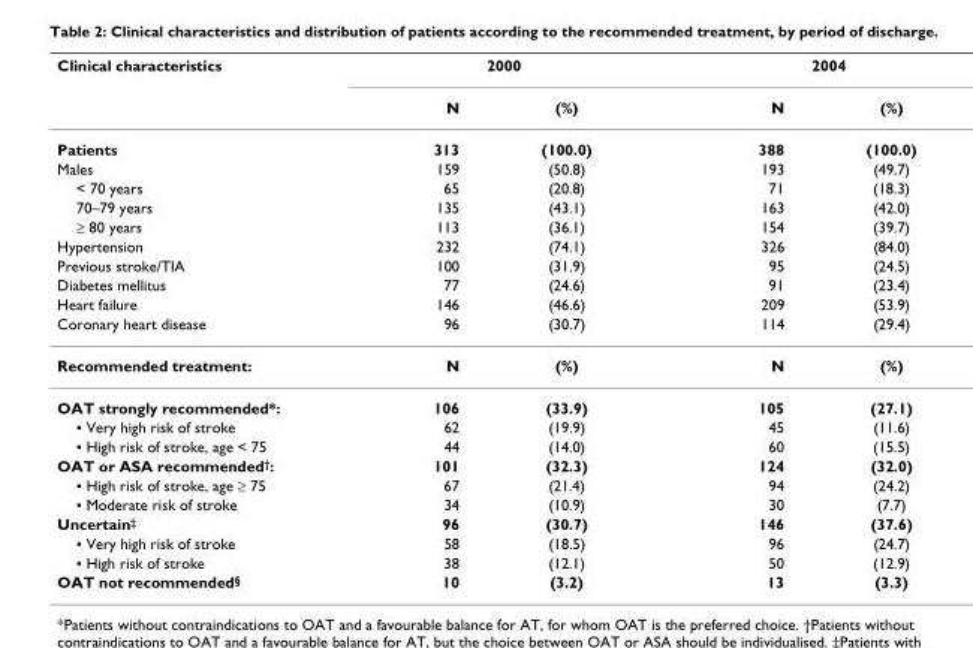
<table><thead><tr><td rowspan="2">Clinical characteristics</td><td colspan="2">2000</td><td colspan="2">2004</td></tr><tr><td>N</td><td>(%)</td><td>N</td><td>(%)</td></tr></thead><tbody><tr><td>Patients</td><td>313</td><td>(100.0)</td><td>388</td><td>(100.0)</td></tr><tr><td>Males</td><td>159</td><td>(50.8)</td><td>193</td><td>(49.7)</td></tr><tr><td>&lt; 70 years</td><td>65</td><td>(20.8)</td><td>71</td><td>(18.3)</td></tr><tr><td>70–79 years</td><td>135</td><td>(43.1)</td><td>163</td><td>(42.0)</td></tr><tr><td>≥ 80 years</td><td>113</td><td>(36.1)</td><td>154</td><td>(39.7)</td></tr><tr><td>Hypertension</td><td>232</td><td>(74.1)</td><td>326</td><td>(84.0)</td></tr><tr><td>Previous stroke/TIA</td><td>100</td><td>(31.9)</td><td>95</td><td>(24.5)</td></tr><tr><td>Diabetes mellitus</td><td>77</td><td>(24.6)</td><td>91</td><td>(23.4)</td></tr><tr><td>Heart failure</td><td>146</td><td>(46.6)</td><td>209</td><td>(53.9)</td></tr><tr><td>Coronary heart disease</td><td>96</td><td>(30.7)</td><td>114</td><td>(29.4)</td></tr><tr><td>Recommended treatment:</td><td>N</td><td>(%)</td><td>N</td><td>(%)</td></tr><tr><td>OAT strongly recommended*:</td><td>106</td><td>(33.9)</td><td>105</td><td>(27.1)</td></tr><tr><td>▪ Very high risk of stroke</td><td>62</td><td>(19.9)</td><td>45</td><td>(11.6)</td></tr><tr><td>▪ High risk of stroke, age &lt; 75</td><td>44</td><td>(14.0)</td><td>60</td><td>(15.5)</td></tr><tr><td>OAT or ASA recommended<sup>†</sup>:</td><td>101</td><td>(32.3)</td><td>124</td><td>(32.0)</td></tr><tr><td>▪ High risk of stroke, age ≥ 75</td><td>67</td><td>(21.4)</td><td>94</td><td>(24.2)</td></tr><tr><td>▪ Moderate risk of stroke</td><td>34</td><td>(10.9)</td><td>30</td><td>(7.7)</td></tr><tr><td>Uncertain<sup>‡</sup></td><td>96</td><td>(30.7)</td><td>146</td><td>(37.6)</td></tr><tr><td>▪ Very high risk of stroke</td><td>58</td><td>(18.5)</td><td>96</td><td>(24.7)</td></tr><tr><td>▪ High risk of stroke</td><td>38</td><td>(12.1)</td><td>50</td><td>(12.9)</td></tr><tr><td>OAT not recommended<sup>§</sup></td><td>10</td><td>(3.2)</td><td>13</td><td>(3.3)</td></tr></tbody></table>